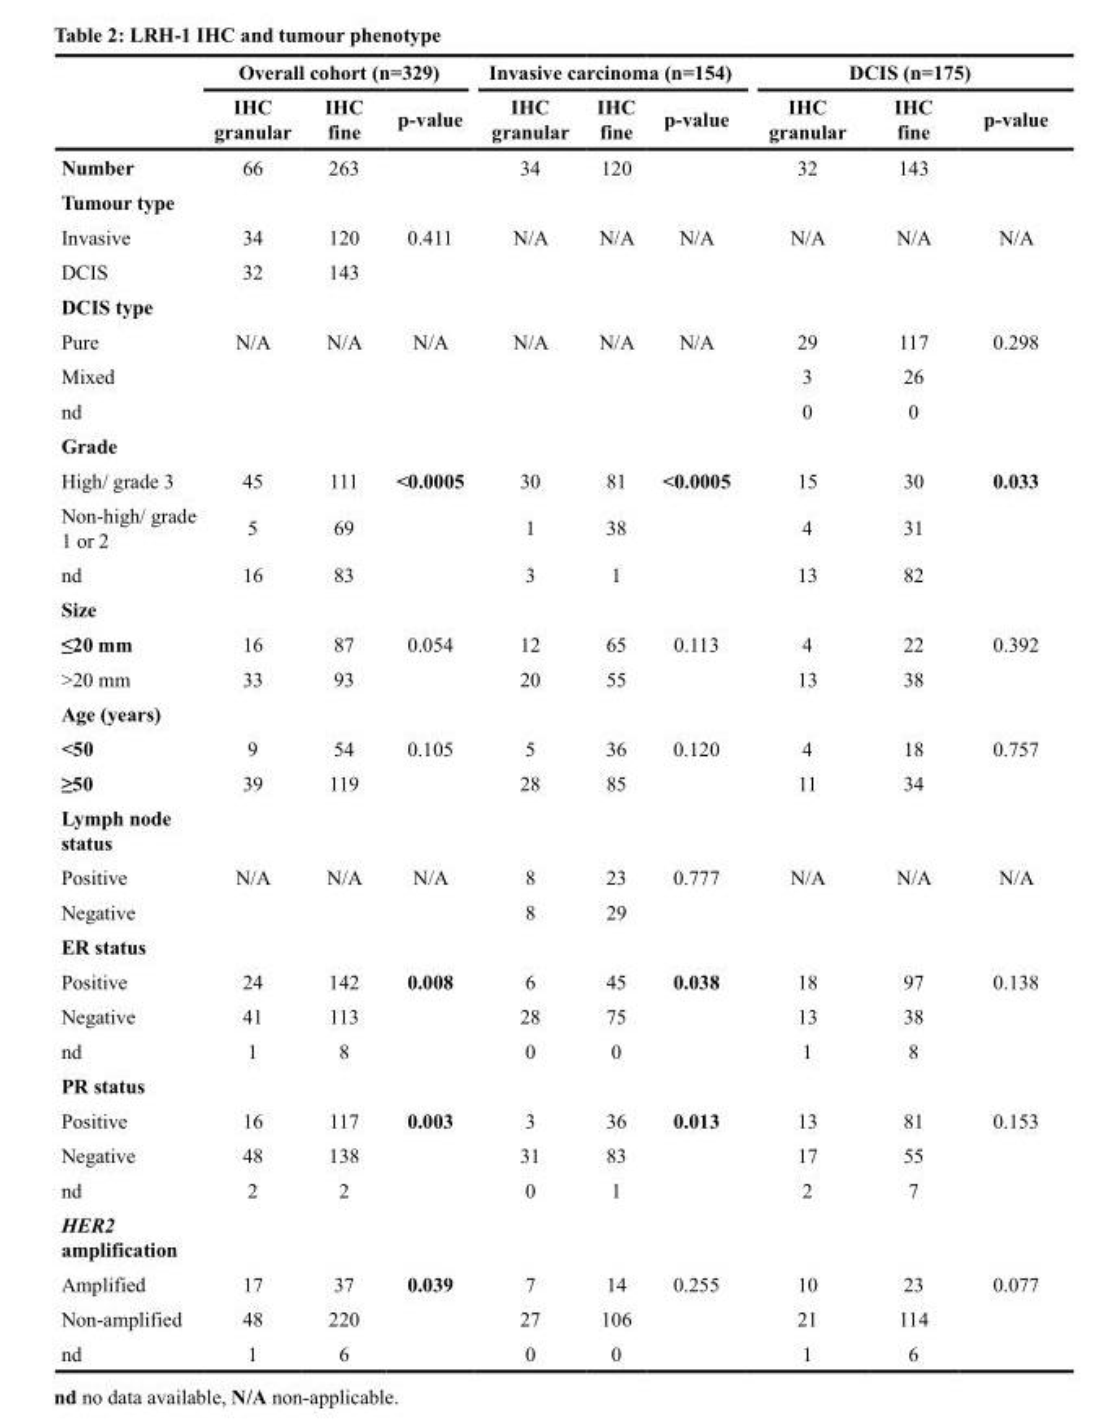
<table><thead><tr><td rowspan="2"></td><td colspan="3">Overall cohort (n=329)</td><td colspan="3">Invasive carcinoma (n=154)</td><td colspan="3">DCIS (n=175)</td></tr><tr><td>IHC granular</td><td>IHC fine</td><td>p-value</td><td>IHC granular</td><td>IHC fine</td><td>p-value</td><td>IHC granular</td><td>IHC fine</td><td>p-value</td></tr></thead><tbody><tr><td>Number</td><td>66</td><td>263</td><td></td><td>34</td><td>120</td><td></td><td>32</td><td>143</td><td></td></tr><tr><td colspan="10">Tumour type</td></tr><tr><td>Invasive</td><td>34</td><td>120</td><td>0.411</td><td>N/A</td><td>N/A</td><td>N/A</td><td>N/A</td><td>N/A</td><td>N/A</td></tr><tr><td>DCIS</td><td>32</td><td>143</td><td></td><td></td><td></td><td></td><td></td><td></td><td></td></tr><tr><td colspan="10">DCIS type</td></tr><tr><td>Pure</td><td>N/A</td><td>N/A</td><td>N/A</td><td>N/A</td><td>N/A</td><td>N/A</td><td>29</td><td>117</td><td>0.298</td></tr><tr><td>Mixed</td><td></td><td></td><td></td><td></td><td></td><td></td><td>3</td><td>26</td><td></td></tr><tr><td>nd</td><td></td><td></td><td></td><td></td><td></td><td></td><td>0</td><td>0</td><td></td></tr><tr><td colspan="10">Grade</td></tr><tr><td>High/ grade 3</td><td>45</td><td>111</td><td>&lt;0.0005</td><td>30</td><td>81</td><td>&lt;0.0005</td><td>15</td><td>30</td><td>0.033</td></tr><tr><td>Non-high/ grade 1 or 2</td><td>5</td><td>69</td><td></td><td>1</td><td>38</td><td></td><td>4</td><td>31</td><td></td></tr><tr><td>nd</td><td>16</td><td>83</td><td></td><td>3</td><td>1</td><td></td><td>13</td><td>82</td><td></td></tr><tr><td colspan="10">Size</td></tr><tr><td>≤20 mm</td><td>16</td><td>87</td><td>0.054</td><td>12</td><td>65</td><td>0.113</td><td>4</td><td>22</td><td>0.392</td></tr><tr><td>&gt;20 mm</td><td>33</td><td>93</td><td></td><td>20</td><td>55</td><td></td><td>13</td><td>38</td><td></td></tr><tr><td colspan="10">Age (years)</td></tr><tr><td>&lt;50</td><td>9</td><td>54</td><td>0.105</td><td>5</td><td>36</td><td>0.120</td><td>4</td><td>18</td><td>0.757</td></tr><tr><td>≥50</td><td>39</td><td>119</td><td></td><td>28</td><td>85</td><td></td><td>11</td><td>34</td><td></td></tr><tr><td colspan="10">Lymph node status</td></tr><tr><td>Positive</td><td>N/A</td><td>N/A</td><td>N/A</td><td>8</td><td>23</td><td>0.777</td><td>N/A</td><td>N/A</td><td>N/A</td></tr><tr><td>Negative</td><td></td><td></td><td></td><td>8</td><td>29</td><td></td><td></td><td></td><td></td></tr><tr><td colspan="10">ER status</td></tr><tr><td>Positive</td><td>24</td><td>142</td><td>0.008</td><td>6</td><td>45</td><td>0.038</td><td>18</td><td>97</td><td>0.138</td></tr><tr><td>Negative</td><td>41</td><td>113</td><td></td><td>28</td><td>75</td><td></td><td>13</td><td>38</td><td></td></tr><tr><td>nd</td><td>1</td><td>8</td><td></td><td>0</td><td>0</td><td></td><td>1</td><td>8</td><td></td></tr><tr><td colspan="10">PR status</td></tr><tr><td>Positive</td><td>16</td><td>117</td><td>0.003</td><td>3</td><td>36</td><td>0.013</td><td>13</td><td>81</td><td>0.153</td></tr><tr><td>Negative</td><td>48</td><td>138</td><td></td><td>31</td><td>83</td><td></td><td>17</td><td>55</td><td></td></tr><tr><td>nd</td><td>2</td><td>2</td><td></td><td>0</td><td>1</td><td></td><td>2</td><td>7</td><td></td></tr><tr><td colspan="10">HER2 amplification</td></tr><tr><td>Amplified</td><td>17</td><td>37</td><td>0.039</td><td>7</td><td>14</td><td>0.255</td><td>10</td><td>23</td><td>0.077</td></tr><tr><td>Non-amplified</td><td>48</td><td>220</td><td></td><td>27</td><td>106</td><td></td><td>21</td><td>114</td><td></td></tr><tr><td>nd</td><td>1</td><td>6</td><td></td><td>0</td><td>0</td><td></td><td>1</td><td>6</td><td></td></tr></tbody></table>